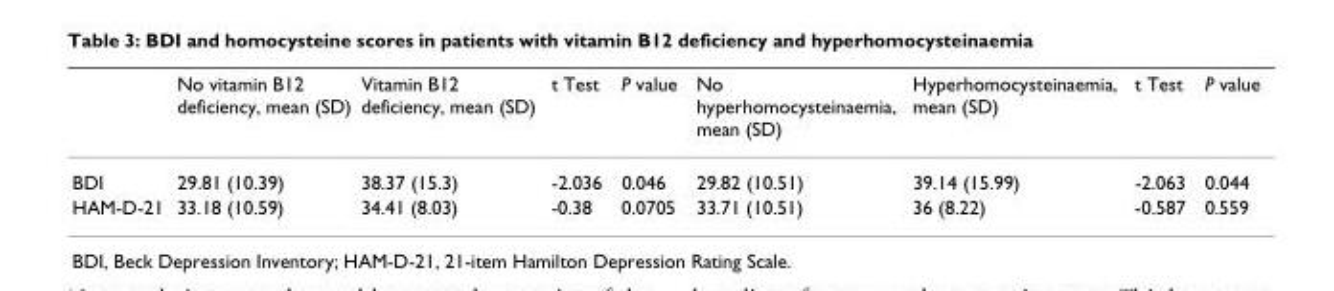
<table><thead><tr><td></td><td>No vitamin B12 deficiency, mean (SD)</td><td>Vitamin B12 deficiency, mean (SD)</td><td>t Test</td><td>P value</td><td>No hyperhomocysteinaemia, mean (SD)</td><td>Hyperhomocysteinaemia, mean (SD)</td><td>t Test</td><td>P value</td></tr></thead><tbody><tr><td>BDI</td><td>29.81 (10.39)</td><td>38.37 (15.3)</td><td>-2.036</td><td>0.046</td><td>29.82 (10.51)</td><td>39.14 (15.99)</td><td>-2.063</td><td>0.044</td></tr><tr><td>HAM-D-21</td><td>33.18 (10.59)</td><td>34.41 (8.03)</td><td>-0.38</td><td>0.0705</td><td>33.71 (10.51)</td><td>36 (8.22)</td><td>-0.587</td><td>0.559</td></tr></tbody></table>